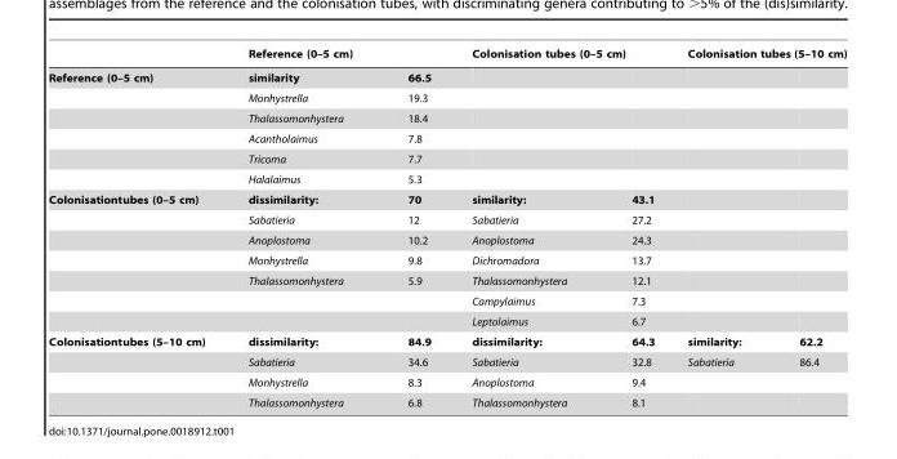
<table><thead><tr><td rowspan="2">Reference (0–5 cm)</td><td colspan="2">Reference (0–5 cm)</td><td colspan="2">Colonisation tubes (0–5 cm)</td><td colspan="2">Colonisation tubes (5–10 cm)</td></tr><tr><td>similarity</td><td>66.5</td><td></td><td></td><td></td><td></td></tr></thead><tbody><tr><td></td><td>Monhystrella</td><td>19.3</td><td></td><td></td><td></td><td></td></tr><tr><td></td><td>Thalassomonhystera</td><td>18.4</td><td></td><td></td><td></td><td></td></tr><tr><td></td><td>Acantholaimus</td><td>7.8</td><td></td><td></td><td></td><td></td></tr><tr><td></td><td>Tricoma</td><td>7.7</td><td></td><td></td><td></td><td></td></tr><tr><td></td><td>Halalaimus</td><td>5.3</td><td></td><td></td><td></td><td></td></tr><tr><td rowspan="7">Colonisationtubes (0–5 cm)</td><td>dissimilarity:</td><td>70</td><td>similarity:</td><td>43.1</td><td></td><td></td></tr><tr><td>Sabatieria</td><td>12</td><td>Sabatieria</td><td>27.2</td><td></td><td></td></tr><tr><td>Anoplostoma</td><td>10.2</td><td>Anoplostoma</td><td>24.3</td><td></td><td></td></tr><tr><td>Monhystrella</td><td>9.8</td><td>Dichromadora</td><td>13.7</td><td></td><td></td></tr><tr><td>Thalassomonhystera</td><td>5.9</td><td>Thalassomonhystera</td><td>12.1</td><td></td><td></td></tr><tr><td></td><td></td><td>Campylaimus</td><td>7.3</td><td></td><td></td></tr><tr><td></td><td></td><td>Leptolaimus</td><td>6.7</td><td></td><td></td></tr><tr><td rowspan="4">Colonisationtubes (5–10 cm)</td><td>dissimilarity:</td><td>84.9</td><td>dissimilarity:</td><td>64.3</td><td>similarity:</td><td>62.2</td></tr><tr><td>Sabatieria</td><td>34.6</td><td>Sabatieria</td><td>32.8</td><td>Sabatieria</td><td>86.4</td></tr><tr><td>Monhystrella</td><td>8.3</td><td>Anoplostoma</td><td>9.4</td><td></td><td></td></tr><tr><td>Thalassomonhystera</td><td>6.8</td><td>Thalassomonhystera</td><td>8.1</td><td></td><td></td></tr></tbody></table>